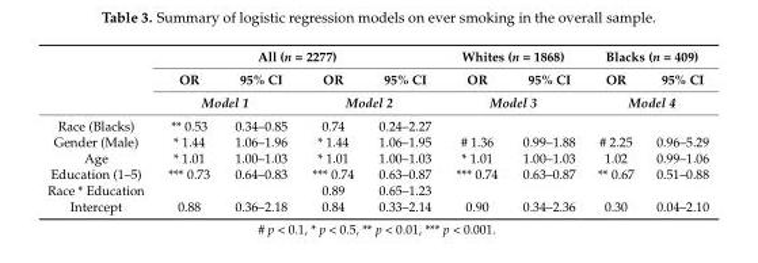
<table><thead><tr><td rowspan="3"></td><td colspan="4">All (n = 2277)</td><td colspan="2">Whites (n = 1868)</td><td colspan="2">Blacks (n = 409)</td></tr><tr><td>OR</td><td>95% CI</td><td>OR</td><td>95% CI</td><td>OR</td><td>95% CI</td><td>OR</td><td>95% CI</td></tr><tr><td colspan="2">Model 1</td><td colspan="2">Model 2</td><td colspan="2">Model 3</td><td colspan="2">Model 4</td></tr></thead><tbody><tr><td>Race (Blacks)</td><td>** 0.53</td><td>0.34–0.85</td><td>0.74</td><td>0.24–2.27</td><td></td><td></td><td></td><td></td></tr><tr><td>Gender (Male)</td><td>* 1.44</td><td>1.06–1.96</td><td>* 1.44</td><td>1.06–1.95</td><td># 1.36</td><td>0.99–1.88</td><td># 2.25</td><td>0.96–5.29</td></tr><tr><td>Age</td><td>* 1.01</td><td>1.00–1.03</td><td>* 1.01</td><td>1.00–1.03</td><td>* 1.01</td><td>1.00–1.03</td><td>1.02</td><td>0.99–1.06</td></tr><tr><td>Education (1–5)</td><td>*** 0.73</td><td>0.64–0.83</td><td>*** 0.74</td><td>0.63–0.87</td><td>*** 0.74</td><td>0.63–0.87</td><td>** 0.67</td><td>0.51–0.88</td></tr><tr><td>Race * Education</td><td></td><td></td><td>0.89</td><td>0.65–1.23</td><td></td><td></td><td></td><td></td></tr><tr><td>Intercept</td><td>0.88</td><td>0.36–2.18</td><td>0.84</td><td>0.33–2.14</td><td>0.90</td><td>0.34–2.36</td><td>0.30</td><td>0.04–2.10</td></tr></tbody></table>